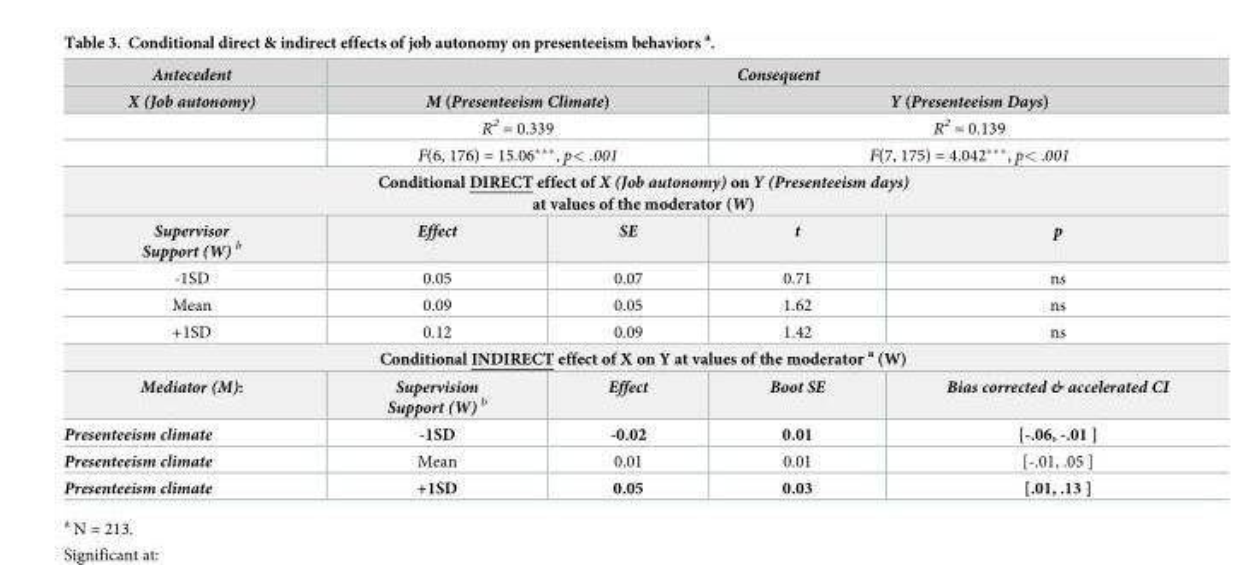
<table><tbody><tr><td>Antecedent</td><td colspan="4">Consequent</td></tr><tr><td rowspan="3">X (Job autonomy)</td><td colspan="2">M (Presenteeism Climate)</td><td colspan="2">Y (Presenteeism Days)</td></tr><tr><td colspan="2">R<sup>2</sup> = 0.339</td><td colspan="2">R<sup>2</sup> = 0.139</td></tr><tr><td colspan="2">F(6, 176) = 15.06***, p&lt; .001</td><td colspan="2">F(7, 175) = 4.042***, p&lt; .001</td></tr><tr><td colspan="5">Conditional DIRECT effect of X (Job autonomy) on Y (Presenteeism days) at values of the moderator (W)</td></tr><tr><td>Supervisor Support (W) <sup>b</sup></td><td>Effect</td><td>SE</td><td>t</td><td>p</td></tr><tr><td>-1SD</td><td>0.05</td><td>0.07</td><td>0.71</td><td>ns</td></tr><tr><td>Mean</td><td>0.09</td><td>0.05</td><td>1.62</td><td>ns</td></tr><tr><td>+1SD</td><td>0.12</td><td>0.09</td><td>1.42</td><td>ns</td></tr><tr><td colspan="5">Conditional INDIRECT effect of X on Y at values of the moderator <sup>a</sup> (W)</td></tr><tr><td>Mediator (M):</td><td>Supervision Support (W) <sup>b</sup></td><td>Effect</td><td>Boot SE</td><td>Bias corrected &amp; accelerated CI</td></tr><tr><td>Presenteeism climate</td><td>-1SD</td><td>-0.02</td><td>0.01</td><td>[-.06, -.01 ]</td></tr><tr><td>Presenteeism climate</td><td>Mean</td><td>0.01</td><td>0.01</td><td>[-.01, .05 ]</td></tr><tr><td>Presenteeism climate</td><td>+1SD</td><td>0.05</td><td>0.03</td><td>[.01, .13 ]</td></tr></tbody></table>